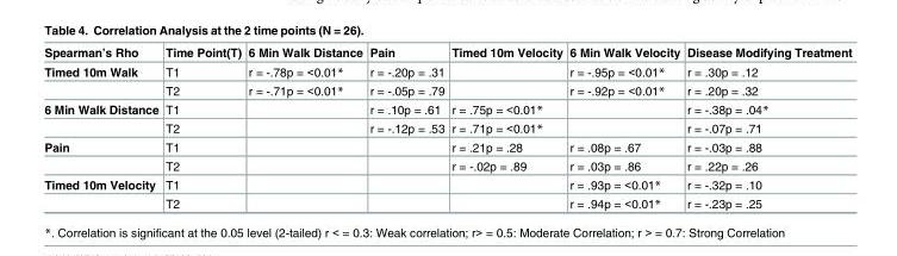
<table><thead><tr><td>Spearman’s Rho</td><td>Time Point(T)</td><td>6 Min Walk Distance</td><td>Pain</td><td>Timed 10m Velocity</td><td>6 Min Walk Velocity</td><td>Disease Modifying Treatment</td></tr></thead><tbody><tr><td rowspan="2">Timed 10m Walk</td><td>T1</td><td>r = -.78p = &lt;0.01*</td><td>r = -.20p = .31</td><td></td><td>r = -.95p = &lt;0.01*</td><td>r = .30p = .12</td></tr><tr><td>T2</td><td>r = -.71p = &lt;0.01*</td><td>r = -.05p = .79</td><td></td><td>r = -.92p = &lt;0.01*</td><td>r = .20p = .32</td></tr><tr><td rowspan="2">6 Min Walk Distance</td><td>T1</td><td></td><td>r = .10p = .61</td><td>r = .75p = &lt;0.01*</td><td></td><td>r = -.38p = .04*</td></tr><tr><td>T2</td><td></td><td>r = -.12p = .53</td><td>r = .71p = &lt;0.01*</td><td></td><td>r = -.07p = .71</td></tr><tr><td rowspan="2">Pain</td><td>T1</td><td></td><td></td><td>r = .21p = .28</td><td>r = .08p = .67</td><td>r = -.03p = .88</td></tr><tr><td>T2</td><td></td><td></td><td>r = -.02p = .89</td><td>r = .03p = .86</td><td>r = .22p = .26</td></tr><tr><td rowspan="2">Timed 10m Velocity</td><td>T1</td><td></td><td></td><td></td><td>r = .93p = &lt;0.01*</td><td>r = -.32p = .10</td></tr><tr><td>T2</td><td></td><td></td><td></td><td>r = .94p = &lt;0.01*</td><td>r = -.23p = .25</td></tr></tbody></table>